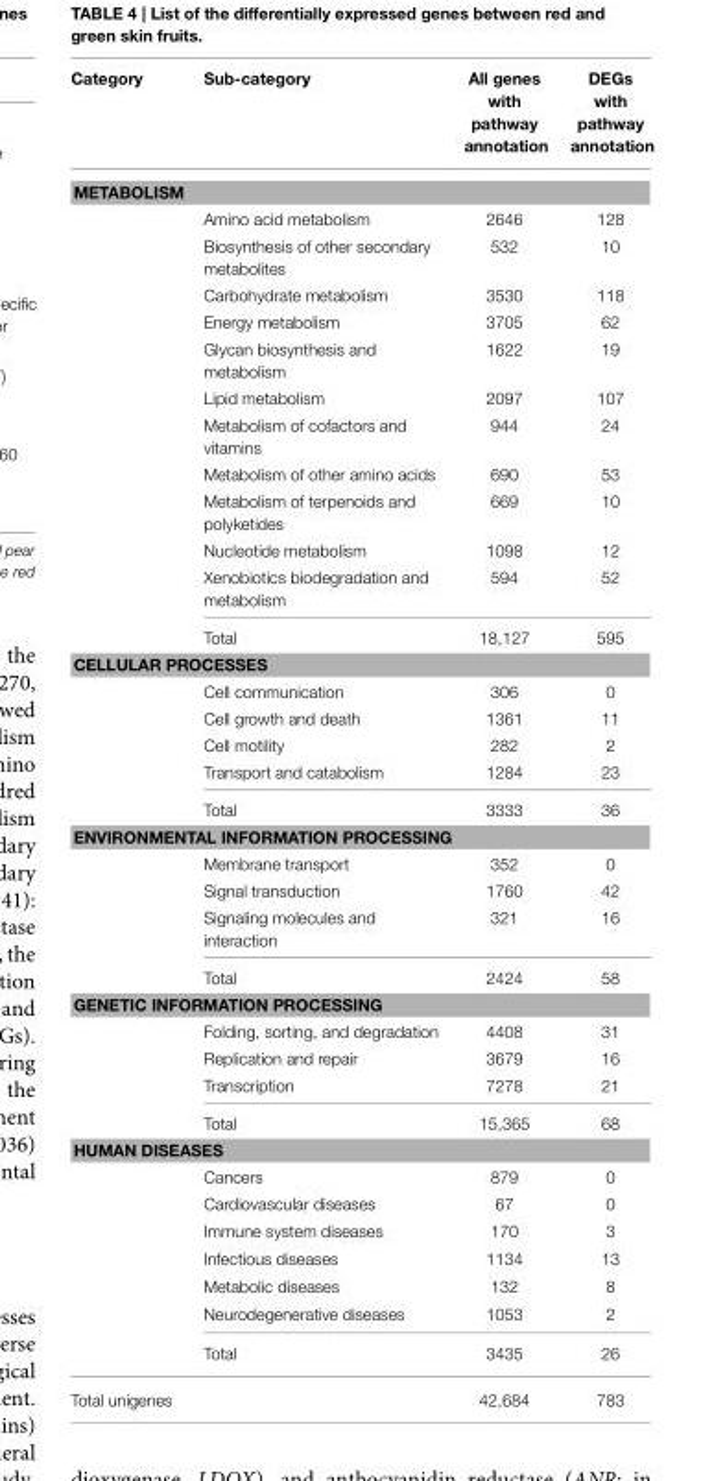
<table><thead><tr><td>Category</td><td>Sub-category</td><td>All genes with pathway annotation</td><td>DEGs with pathway annotation</td></tr></thead><tbody><tr><td colspan="4">METABOLISM</td></tr><tr><td></td><td>Amino acid metabolism</td><td>2646</td><td>128</td></tr><tr><td></td><td>Biosynthesis of other secondary metabolites</td><td>532</td><td>10</td></tr><tr><td></td><td>Carbohydrate metabolism</td><td>3530</td><td>118</td></tr><tr><td></td><td>Energy metabolism</td><td>3705</td><td>62</td></tr><tr><td></td><td>Glycan biosynthesis and metabolism</td><td>1622</td><td>19</td></tr><tr><td></td><td>Lipid metabolism</td><td>2097</td><td>107</td></tr><tr><td></td><td>Metabolism of cofactors and vitamins</td><td>944</td><td>24</td></tr><tr><td></td><td>Metabolism of other amino acids</td><td>690</td><td>53</td></tr><tr><td></td><td>Metabolism of terpenoids and polyketides</td><td>669</td><td>10</td></tr><tr><td></td><td>Nucleotide metabolism</td><td>1098</td><td>12</td></tr><tr><td></td><td>Xenobiotics biodegradation and metabolism</td><td>594</td><td>52</td></tr><tr><td></td><td>Total</td><td>18,127</td><td>595</td></tr><tr><td colspan="4">CELLULAR PROCESSES</td></tr><tr><td></td><td>Cell communication</td><td>306</td><td>0</td></tr><tr><td></td><td>Cell growth and death</td><td>1361</td><td>11</td></tr><tr><td></td><td>Cell motility</td><td>282</td><td>2</td></tr><tr><td></td><td>Transport and catabolism</td><td>1284</td><td>23</td></tr><tr><td></td><td>Total</td><td>3333</td><td>36</td></tr><tr><td colspan="4">ENVIRONMENTAL INFORMATION PROCESSING</td></tr><tr><td></td><td>Membrane transport</td><td>352</td><td>0</td></tr><tr><td></td><td>Signal transduction</td><td>1760</td><td>42</td></tr><tr><td></td><td>Signaling molecules and interaction</td><td>321</td><td>16</td></tr><tr><td></td><td>Total</td><td>2424</td><td>58</td></tr><tr><td colspan="4">GENETIC INFORMATION PROCESSING</td></tr><tr><td></td><td>Folding, sorting, and degradation</td><td>4408</td><td>31</td></tr><tr><td></td><td>Replication and repair</td><td>3679</td><td>16</td></tr><tr><td></td><td>Transcription</td><td>7278</td><td>21</td></tr><tr><td></td><td>Total</td><td>15,365</td><td>68</td></tr><tr><td colspan="4">HUMAN DISEASES</td></tr><tr><td></td><td>Cancers</td><td>879</td><td>0</td></tr><tr><td></td><td>Cardiovascular diseases</td><td>67</td><td>0</td></tr><tr><td></td><td>Immune system diseases</td><td>170</td><td>3</td></tr><tr><td></td><td>Infectious diseases</td><td>1134</td><td>13</td></tr><tr><td></td><td>Metabolic diseases</td><td>132</td><td>8</td></tr><tr><td></td><td>Neurodegenerative diseases</td><td>1053</td><td>2</td></tr><tr><td></td><td>Total</td><td>3435</td><td>26</td></tr><tr><td>Total unigenes</td><td></td><td>42,684</td><td>783</td></tr></tbody></table>